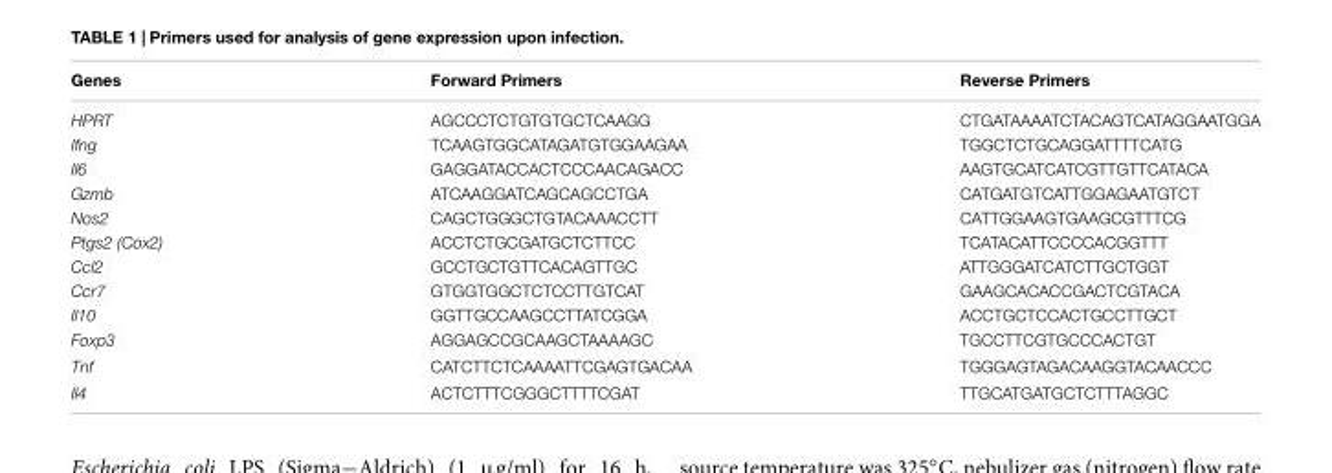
<table><thead><tr><td>Genes</td><td>Forward Primers</td><td>Reverse Primers</td></tr></thead><tbody><tr><td>HPRT</td><td>AGCCCTCTGTGTGCTCAAGG</td><td>CTGATAAAATCTACAGTCATAGGAATGGA</td></tr><tr><td>Ifng</td><td>TCAAGTGGCATAGATGTGGAAGAA</td><td>TGGCTCTGCAGGATTTTCATG</td></tr><tr><td>Il6</td><td>GAGGATACCACTCCCAACAGACC</td><td>AAGTGCATCATCGTTGTTCATACA</td></tr><tr><td>Gzmb</td><td>ATCAAGGATCAGCAGCCTGA</td><td>CATGATGTCATTGGAGAATGTCT</td></tr><tr><td>Nos2</td><td>CAGCTGGGCTGTACAAACCTT</td><td>CATTGGAAGTGAAGCGTTTCG</td></tr><tr><td>Ptgs2 (Cox2)</td><td>ACCTCTGCGATGCTCTTCC</td><td>TCATACATTCCCCACGGTTT</td></tr><tr><td>Ccl2</td><td>GCCTGCTGTTCACAGTTGC</td><td>ATTGGGATCATCTTGCTGGT</td></tr><tr><td>Ccr7</td><td>GTGGTGGCTCTCCTTGTCAT</td><td>GAAGCACACCGACTCGTACA</td></tr><tr><td>Il10</td><td>GGTTGCCAAGCCTTATCGGA</td><td>ACCTGCTCCACTGCCTTGCT</td></tr><tr><td>Foxp3</td><td>AGGAGCCGCAAGCTAAAAGC</td><td>TGCCTTCGTGCCCACTGT</td></tr><tr><td>Tnf</td><td>CATCTTCTCAAAATTCGAGTGACAA</td><td>TGGGAGTAGACAAGGTACAACCC</td></tr><tr><td>Il4</td><td>ACTCTTTCGGGCTTTTCGAT</td><td>TTGCATGATGCTCTTTAGGC</td></tr></tbody></table>